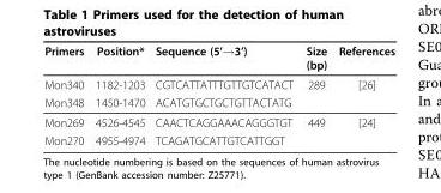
<table><thead><tr><td>Primers</td><td>Position*</td><td>Sequence (5’→3’)</td><td>Size (bp)</td><td>References</td></tr></thead><tbody><tr><td>Mon340</td><td>1182-1203</td><td>CGTCATTATTTGTTGTCATACT</td><td>289</td><td>[26]</td></tr><tr><td>Mon348</td><td>1450-1470</td><td>ACATGTGCTGCTGTTACTATG</td><td></td><td></td></tr><tr><td>Mon269</td><td>4526-4545</td><td>CAACTCAGGAAACAGGGTGT</td><td>449</td><td>[24]</td></tr><tr><td>Mon270</td><td>4955-4974</td><td>TCAGATGCATTGTCATTGGT</td><td></td><td></td></tr></tbody></table>